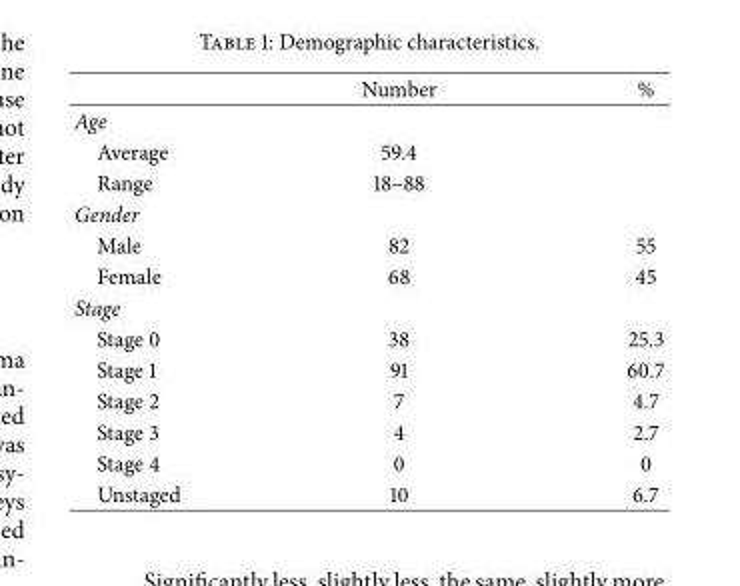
<table><thead><tr><td></td><td>Number</td><td>%</td></tr></thead><tbody><tr><td colspan="3">Age</td></tr><tr><td>Average</td><td>59.4</td><td></td></tr><tr><td>Range</td><td>18–88</td><td></td></tr><tr><td colspan="3">Gender</td></tr><tr><td>Male</td><td>82</td><td>55</td></tr><tr><td>Female</td><td>68</td><td>45</td></tr><tr><td colspan="3">Stage</td></tr><tr><td>Stage 0</td><td>38</td><td>25.3</td></tr><tr><td>Stage 1</td><td>91</td><td>60.7</td></tr><tr><td>Stage 2</td><td>7</td><td>4.7</td></tr><tr><td>Stage 3</td><td>4</td><td>2.7</td></tr><tr><td>Stage 4</td><td>0</td><td>0</td></tr><tr><td>Unstaged</td><td>10</td><td>6.7</td></tr></tbody></table>